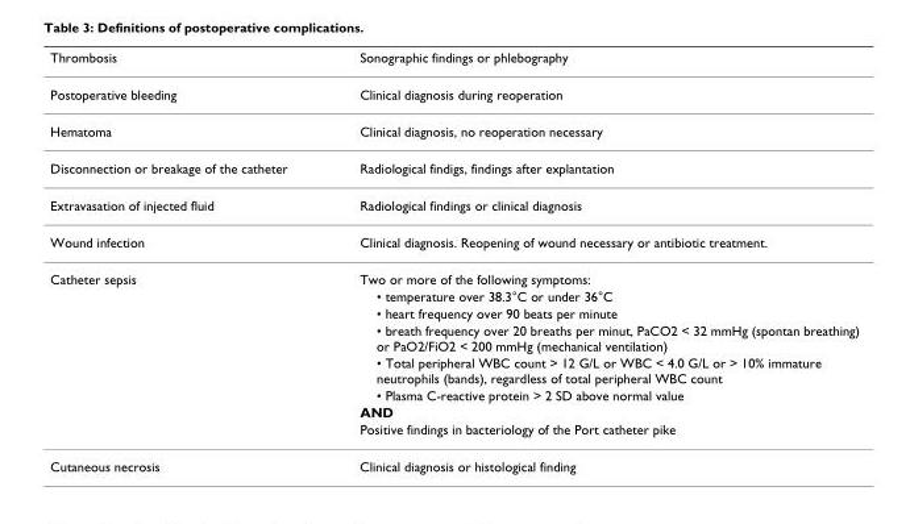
<table><thead><tr><td>Thrombosis</td><td>Sonographic findings or phlebography</td></tr></thead><tbody><tr><td>Postoperative bleeding</td><td>Clinical diagnosis during reoperation</td></tr><tr><td>Hematoma</td><td>Clinical diagnosis, no reoperation necessary</td></tr><tr><td>Disconnection or breakage of the catheter</td><td>Radiological findigs, findings after explantation</td></tr><tr><td>Extravasation of injected fluid</td><td>Radiological findings or clinical diagnosis</td></tr><tr><td>Wound infection</td><td>Clinical diagnosis. Reopening of wound necessary or antibiotic treatment.</td></tr><tr><td rowspan="8">Catheter sepsis</td><td>Two or more of the following symptoms:</td></tr><tr><td>• temperature over 38.3°C or under 36°C</td></tr><tr><td>• heart frequency over 90 beats per minute</td></tr><tr><td>• breath frequency over 20 breaths per minut, PaCO2 &lt; 32 mmHg (spontan breathing) or PaO2/FiO2 &lt; 200 mmHg (mechanical ventilation)</td></tr><tr><td>• Total peripheral WBC count &gt; 12 G/L or WBC &lt; 4.0 G/L or &gt; 10% immature neutrophils (bands), regardless of total peripheral WBC count</td></tr><tr><td>• Plasma C-reactive protein &gt; 2 SD above normal value</td></tr><tr><td>AND</td></tr><tr><td>Positive findings in bacteriology of the Port catheter pike</td></tr><tr><td>Cutaneous necrosis</td><td>Clinical diagnosis or histological finding</td></tr></tbody></table>